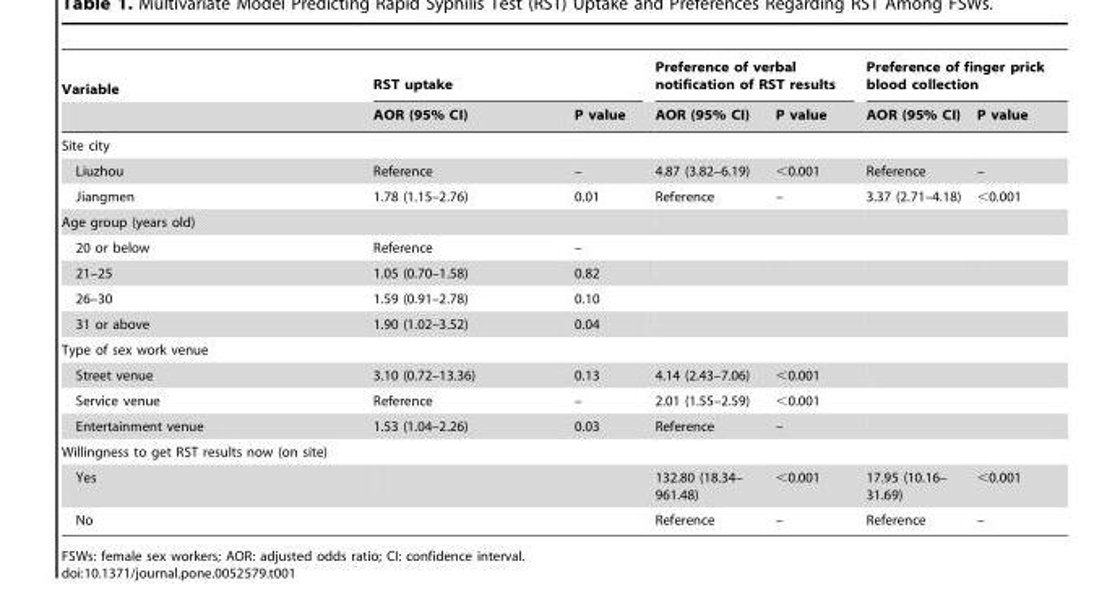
<table><thead><tr><td rowspan="2">Variable</td><td colspan="2">RST uptake</td><td colspan="2">Preference of verbal notification of RST results</td><td colspan="2">Preference of finger prick blood collection</td></tr><tr><td>AOR (95% CI)</td><td>P value</td><td>AOR (95% CI)</td><td>P value</td><td>AOR (95% CI)</td><td>P value</td></tr></thead><tbody><tr><td colspan="7">Site city</td></tr><tr><td>Liuzhou</td><td>Reference</td><td>–</td><td>4.87 (3.82–6.19)</td><td>&lt;0.001</td><td>Reference</td><td>–</td></tr><tr><td>Jiangmen</td><td>1.78 (1.15–2.76)</td><td>0.01</td><td>Reference</td><td>–</td><td>3.37 (2.71–4.18)</td><td>&lt;0.001</td></tr><tr><td colspan="7">Age group (years old)</td></tr><tr><td>20 or below</td><td>Reference</td><td>–</td><td></td><td></td><td></td><td></td></tr><tr><td>21–25</td><td>1.05 (0.70–1.58)</td><td>0.82</td><td></td><td></td><td></td><td></td></tr><tr><td>26–30</td><td>1.59 (0.91–2.78)</td><td>0.10</td><td></td><td></td><td></td><td></td></tr><tr><td>31 or above</td><td>1.90 (1.02–3.52)</td><td>0.04</td><td></td><td></td><td></td><td></td></tr><tr><td colspan="7">Type of sex work venue</td></tr><tr><td>Street venue</td><td>3.10 (0.72–13.36)</td><td>0.13</td><td>4.14 (2.43–7.06)</td><td>&lt;0.001</td><td></td><td></td></tr><tr><td>Service venue</td><td>Reference</td><td>–</td><td>2.01 (1.55–2.59)</td><td>&lt;0.001</td><td></td><td></td></tr><tr><td>Entertainment venue</td><td>1.53 (1.04–2.26)</td><td>0.03</td><td>Reference</td><td>–</td><td></td><td></td></tr><tr><td colspan="7">Willingness to get RST results now (on site)</td></tr><tr><td>Yes</td><td></td><td></td><td>132.80 (18.34– 961.48)</td><td>&lt;0.001</td><td>17.95 (10.16– 31.69)</td><td>&lt;0.001</td></tr><tr><td>No</td><td></td><td></td><td>Reference</td><td>–</td><td>Reference</td><td>–</td></tr></tbody></table>